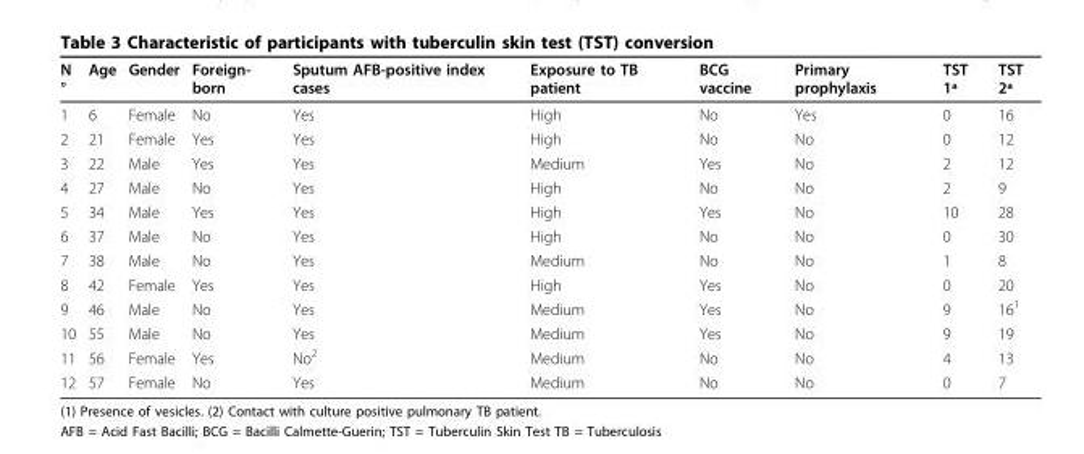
<table><thead><tr><td>N °</td><td>Age</td><td>Gender</td><td>Foreign- born</td><td>Sputum AFB-positive index cases</td><td>Exposure to TB patient</td><td>BCG vaccine</td><td>Primary prophylaxis</td><td>TST 1ª</td><td>TST 2ª</td></tr></thead><tbody><tr><td>1</td><td>6</td><td>Female</td><td>No</td><td>Yes</td><td>High</td><td>No</td><td>Yes</td><td>0</td><td>16</td></tr><tr><td>2</td><td>21</td><td>Female</td><td>Yes</td><td>Yes</td><td>High</td><td>No</td><td>No</td><td>0</td><td>12</td></tr><tr><td>3</td><td>22</td><td>Male</td><td>Yes</td><td>Yes</td><td>Medium</td><td>Yes</td><td>No</td><td>2</td><td>12</td></tr><tr><td>4</td><td>27</td><td>Male</td><td>No</td><td>Yes</td><td>High</td><td>No</td><td>No</td><td>2</td><td>9</td></tr><tr><td>5</td><td>34</td><td>Male</td><td>Yes</td><td>Yes</td><td>High</td><td>Yes</td><td>No</td><td>10</td><td>28</td></tr><tr><td>6</td><td>37</td><td>Male</td><td>No</td><td>Yes</td><td>High</td><td>No</td><td>No</td><td>0</td><td>30</td></tr><tr><td>7</td><td>38</td><td>Male</td><td>No</td><td>Yes</td><td>Medium</td><td>No</td><td>No</td><td>1</td><td>8</td></tr><tr><td>8</td><td>42</td><td>Female</td><td>Yes</td><td>Yes</td><td>High</td><td>Yes</td><td>No</td><td>0</td><td>20</td></tr><tr><td>9</td><td>46</td><td>Male</td><td>No</td><td>Yes</td><td>Medium</td><td>Yes</td><td>No</td><td>9</td><td>16<sup>1</sup></td></tr><tr><td>10</td><td>55</td><td>Male</td><td>No</td><td>Yes</td><td>Medium</td><td>Yes</td><td>No</td><td>9</td><td>19</td></tr><tr><td>11</td><td>56</td><td>Female</td><td>Yes</td><td>No<sup>2</sup></td><td>Medium</td><td>No</td><td>No</td><td>4</td><td>13</td></tr><tr><td>12</td><td>57</td><td>Female</td><td>No</td><td>Yes</td><td>Medium</td><td>No</td><td>No</td><td>0</td><td>7</td></tr></tbody></table>